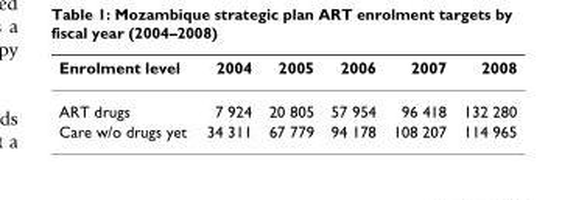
<table><thead><tr><td>Enrolment level</td><td>2004</td><td>2005</td><td>2006</td><td>2007</td><td>2008</td></tr></thead><tbody><tr><td>ART drugs</td><td>7 924</td><td>20 805</td><td>57 954</td><td>96 418</td><td>132 280</td></tr><tr><td>Care w/o drugs yet</td><td>34 311</td><td>67 779</td><td>94 178</td><td>108 207</td><td>114 965</td></tr></tbody></table>